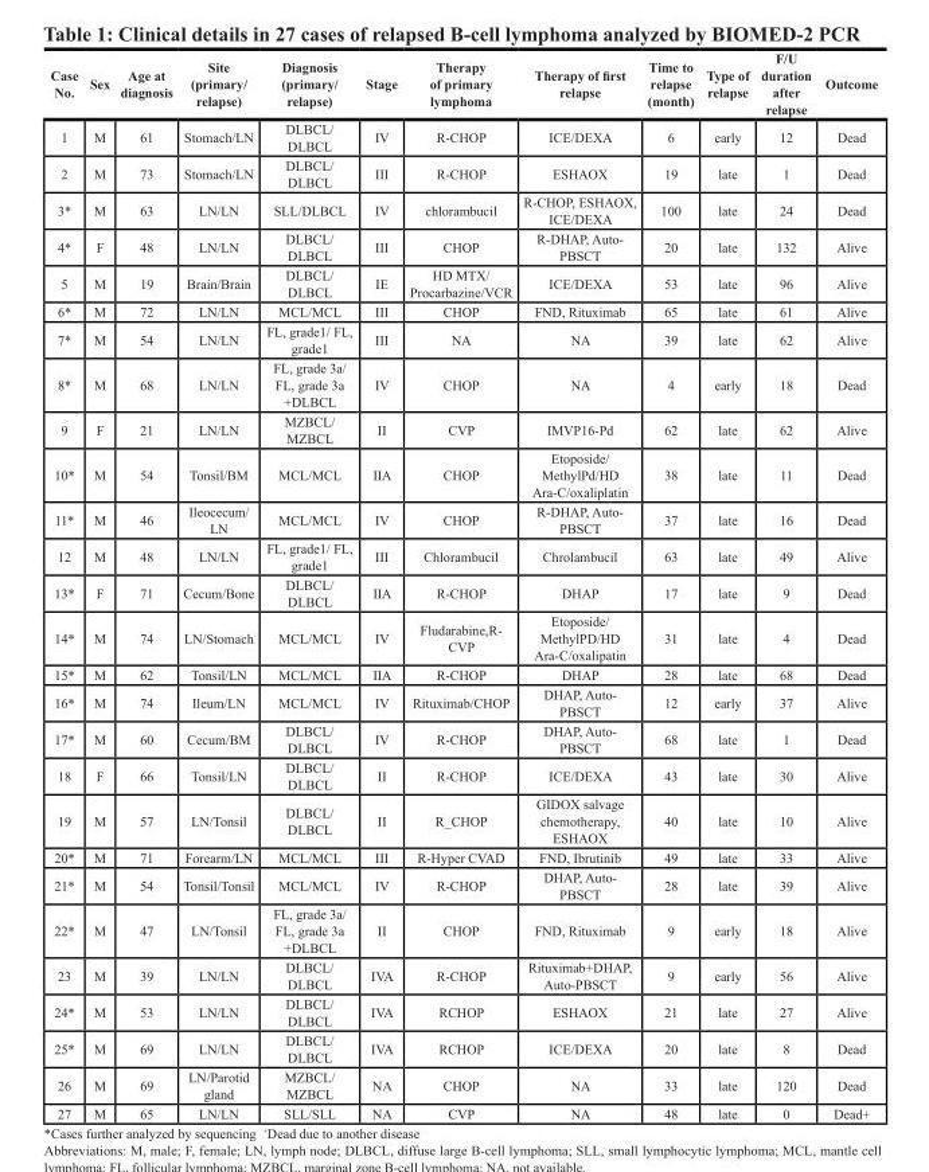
<table><thead><tr><td>Case No.</td><td>Sex</td><td>Age at diagnosis</td><td>Site (primary/ relapse)</td><td>Diagnosis (primary/ relapse)</td><td>Stage</td><td>Therapy of primary lymphoma</td><td>Therapy of first relapse</td><td>Time to relapse (month)</td><td>Type of relapse</td><td>F/U duration after relapse</td><td>Outcome</td></tr></thead><tbody><tr><td>1</td><td>M</td><td>61</td><td>Stomach/LN</td><td>DLBCL/ DLBCL</td><td>IV</td><td>R-CHOP</td><td>ICE/DEXA</td><td>6</td><td>early</td><td>12</td><td>Dead</td></tr><tr><td>2</td><td>M</td><td>73</td><td>Stomach/LN</td><td>DLBCL/ DLBCL</td><td>III</td><td>R-CHOP</td><td>ESHAOX</td><td>19</td><td>late</td><td>1</td><td>Dead</td></tr><tr><td>3*</td><td>M</td><td>63</td><td>LN/LN</td><td>SLL/DLBCL</td><td>IV</td><td>chlorambucil</td><td>R-CHOP, ESHAOX, ICE/DEXA</td><td>100</td><td>late</td><td>24</td><td>Dead</td></tr><tr><td>4*</td><td>F</td><td>48</td><td>LN/LN</td><td>DLBCL/ DLBCL</td><td>III</td><td>CHOP</td><td>R-DHAP, Auto- PBSCT</td><td>20</td><td>late</td><td>132</td><td>Alive</td></tr><tr><td>5</td><td>M</td><td>19</td><td>Brain/Brain</td><td>DLBCL/ DLBCL</td><td>IE</td><td>HD MTX/ Procarbazine/VCR</td><td>ICE/DEXA</td><td>53</td><td>late</td><td>96</td><td>Alive</td></tr><tr><td>6*</td><td>M</td><td>72</td><td>LN/LN</td><td>MCL/MCL</td><td>III</td><td>CHOP</td><td>FND, Rituximab</td><td>65</td><td>late</td><td>61</td><td>Alive</td></tr><tr><td>7*</td><td>M</td><td>54</td><td>LN/LN</td><td>FL, grade1/ FL, grade1</td><td>III</td><td>NA</td><td>NA</td><td>39</td><td>late</td><td>62</td><td>Alive</td></tr><tr><td>8*</td><td>M</td><td>68</td><td>LN/LN</td><td>FL, grade 3a/ FL, grade 3a +DLBCL</td><td>IV</td><td>CHOP</td><td>NA</td><td>4</td><td>early</td><td>18</td><td>Dead</td></tr><tr><td>9</td><td>F</td><td>21</td><td>LN/LN</td><td>MZBCL/ MZBCL</td><td>II</td><td>CVP</td><td>IMVP16-Pd</td><td>62</td><td>late</td><td>62</td><td>Alive</td></tr><tr><td>10*</td><td>M</td><td>54</td><td>Tonsil/BM</td><td>MCL/MCL</td><td>IIA</td><td>CHOP</td><td>Etoposide/ MethylPd/HD Ara-C/oxaliplatin</td><td>38</td><td>late</td><td>11</td><td>Dead</td></tr><tr><td>11*</td><td>M</td><td>46</td><td>Ileocecum/ LN</td><td>MCL/MCL</td><td>IV</td><td>CHOP</td><td>R-DHAP, Auto- PBSCT</td><td>37</td><td>late</td><td>16</td><td>Dead</td></tr><tr><td>12</td><td>M</td><td>48</td><td>LN/LN</td><td>FL, grade1/ FL, grade1</td><td>III</td><td>Chlorambucil</td><td>Chrolambucil</td><td>63</td><td>late</td><td>49</td><td>Alive</td></tr><tr><td>13*</td><td>F</td><td>71</td><td>Cecum/Bone</td><td>DLBCL/ DLBCL</td><td>IIA</td><td>R-CHOP</td><td>DHAP</td><td>17</td><td>late</td><td>9</td><td>Dead</td></tr><tr><td>14*</td><td>M</td><td>74</td><td>LN/Stomach</td><td>MCL/MCL</td><td>IV</td><td>Fludarabine,R- CVP</td><td>Etoposide/ MethylPD/HD Ara-C/oxalipatin</td><td>31</td><td>late</td><td>4</td><td>Dead</td></tr><tr><td>15*</td><td>M</td><td>62</td><td>Tonsil/LN</td><td>MCL/MCL</td><td>IIA</td><td>R-CHOP</td><td>DHAP</td><td>28</td><td>late</td><td>68</td><td>Dead</td></tr><tr><td>16*</td><td>M</td><td>74</td><td>Ileum/LN</td><td>MCL/MCL</td><td>IV</td><td>Rituximab/CHOP</td><td>DHAP, Auto- PBSCT</td><td>12</td><td>early</td><td>37</td><td>Alive</td></tr><tr><td>17*</td><td>M</td><td>60</td><td>Cecum/BM</td><td>DLBCL/ DLBCL</td><td>IV</td><td>R-CHOP</td><td>DHAP, Auto- PBSCT</td><td>68</td><td>late</td><td>1</td><td>Dead</td></tr><tr><td>18</td><td>F</td><td>66</td><td>Tonsil/LN</td><td>DLBCL/ DLBCL</td><td>II</td><td>R-CHOP</td><td>ICE/DEXA</td><td>43</td><td>late</td><td>30</td><td>Alive</td></tr><tr><td>19</td><td>M</td><td>57</td><td>LN/Tonsil</td><td>DLBCL/ DLBCL</td><td>II</td><td>R_CHOP</td><td>GIDOX salvage chemotherapy, ESHAOX</td><td>40</td><td>late</td><td>10</td><td>Alive</td></tr><tr><td>20*</td><td>M</td><td>71</td><td>Forearm/LN</td><td>MCL/MCL</td><td>III</td><td>R-Hyper CVAD</td><td>FND, Ibrutinib</td><td>49</td><td>late</td><td>33</td><td>Alive</td></tr><tr><td>21*</td><td>M</td><td>54</td><td>Tonsil/Tonsil</td><td>MCL/MCL</td><td>IV</td><td>R-CHOP</td><td>DHAP, Auto- PBSCT</td><td>28</td><td>late</td><td>39</td><td>Alive</td></tr><tr><td>22*</td><td>M</td><td>47</td><td>LN/Tonsil</td><td>FL, grade 3a/ FL, grade 3a +DLBCL</td><td>II</td><td>CHOP</td><td>FND, Rituximab</td><td>9</td><td>early</td><td>18</td><td>Alive</td></tr><tr><td>23</td><td>M</td><td>39</td><td>LN/LN</td><td>DLBCL/ DLBCL</td><td>IVA</td><td>R-CHOP</td><td>Rituximab+DHAP, Auto-PBSCT</td><td>9</td><td>early</td><td>56</td><td>Alive</td></tr><tr><td>24*</td><td>M</td><td>53</td><td>LN/LN</td><td>DLBCL/ DLBCL</td><td>IVA</td><td>RCHOP</td><td>ESHAOX</td><td>21</td><td>late</td><td>27</td><td>Alive</td></tr><tr><td>25*</td><td>M</td><td>69</td><td>LN/LN</td><td>DLBCL/ DLBCL</td><td>IVA</td><td>RCHOP</td><td>ICE/DEXA</td><td>20</td><td>late</td><td>8</td><td>Dead</td></tr><tr><td>26</td><td>M</td><td>69</td><td>LN/Parotid gland</td><td>MZBCL/ MZBCL</td><td>NA</td><td>CHOP</td><td>NA</td><td>33</td><td>late</td><td>120</td><td>Dead</td></tr><tr><td>27</td><td>M</td><td>65</td><td>LN/LN</td><td>SLL/SLL</td><td>NA</td><td>CVP</td><td>NA</td><td>48</td><td>late</td><td>0</td><td>Dead+</td></tr></tbody></table>